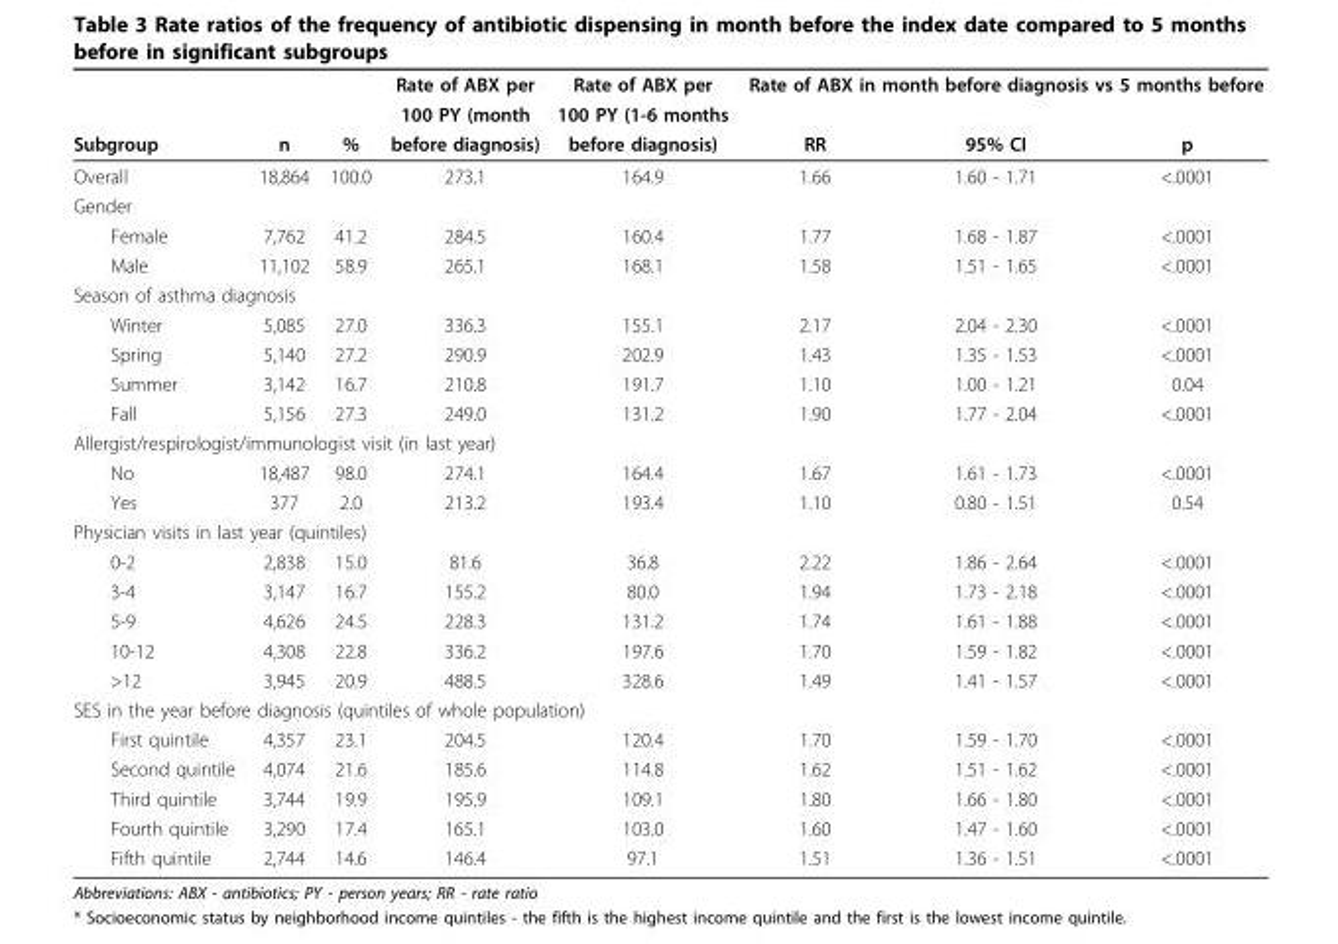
<table><thead><tr><td rowspan="3">Subgroup</td><td rowspan="3">n</td><td rowspan="3">%</td><td rowspan="3">Rate of ABX per 100 PY (month before diagnosis)</td><td rowspan="3">Rate of ABX per 100 PY (1-6 months before diagnosis)</td><td colspan="3">Rate of ABX in month before diagnosis vs 5 months before</td></tr><tr><td rowspan="2">RR</td><td rowspan="2">95% CI</td><td rowspan="2">p</td></tr><tr></tr></thead><tbody><tr><td>Overall</td><td>18,864</td><td>100.0</td><td>273.1</td><td>164.9</td><td>1.66</td><td>1.60 - 1.71</td><td>&lt;.0001</td></tr><tr><td colspan="8">Gender</td></tr><tr><td>Female</td><td>7,762</td><td>41.2</td><td>284.5</td><td>160.4</td><td>1.77</td><td>1.68 - 1.87</td><td>&lt;.0001</td></tr><tr><td>Male</td><td>11,102</td><td>58.9</td><td>265.1</td><td>168.1</td><td>1.58</td><td>1.51 - 1.65</td><td>&lt;.0001</td></tr><tr><td colspan="8">Season of asthma diagnosis</td></tr><tr><td>Winter</td><td>5,085</td><td>27.0</td><td>336.3</td><td>155.1</td><td>2.17</td><td>2.04 - 2.30</td><td>&lt;.0001</td></tr><tr><td>Spring</td><td>5,140</td><td>27.2</td><td>290.9</td><td>202.9</td><td>1.43</td><td>1.35 - 1.53</td><td>&lt;.0001</td></tr><tr><td>Summer</td><td>3,142</td><td>16.7</td><td>210.8</td><td>191.7</td><td>1.10</td><td>1.00 - 1.21</td><td>0.04</td></tr><tr><td>Fall</td><td>5,156</td><td>27.3</td><td>249.0</td><td>131.2</td><td>1.90</td><td>1.77 - 2.04</td><td>&lt;.0001</td></tr><tr><td colspan="8">Allergist/respirologist/immunologist visit (in last year)</td></tr><tr><td>No</td><td>18,487</td><td>98.0</td><td>274.1</td><td>164.4</td><td>1.67</td><td>1.61 - 1.73</td><td>&lt;.0001</td></tr><tr><td>Yes</td><td>377</td><td>2.0</td><td>213.2</td><td>193.4</td><td>1.10</td><td>0.80 - 1.51</td><td>0.54</td></tr><tr><td colspan="8">Physician visits in last year (quintiles)</td></tr><tr><td>0-2</td><td>2,838</td><td>15.0</td><td>81.6</td><td>36.8</td><td>2.22</td><td>1.86 - 2.64</td><td>&lt;.0001</td></tr><tr><td>3-4</td><td>3,147</td><td>16.7</td><td>155.2</td><td>80.0</td><td>1.94</td><td>1.73 - 2.18</td><td>&lt;.0001</td></tr><tr><td>5-9</td><td>4,626</td><td>24.5</td><td>228.3</td><td>131.2</td><td>1.74</td><td>1.61 - 1.88</td><td>&lt;.0001</td></tr><tr><td>10-12</td><td>4,308</td><td>22.8</td><td>336.2</td><td>197.6</td><td>1.70</td><td>1.59 - 1.82</td><td>&lt;.0001</td></tr><tr><td>&gt;12</td><td>3,945</td><td>20.9</td><td>488.5</td><td>328.6</td><td>1.49</td><td>1.41 - 1.57</td><td>&lt;.0001</td></tr><tr><td colspan="8">SES in the year before diagnosis (quintiles of whole population)</td></tr><tr><td>First quintile</td><td>4,357</td><td>23.1</td><td>204.5</td><td>120.4</td><td>1.70</td><td>1.59 - 1.70</td><td>&lt;.0001</td></tr><tr><td>Second quintile</td><td>4,074</td><td>21.6</td><td>185.6</td><td>114.8</td><td>1.62</td><td>1.51 - 1.62</td><td>&lt;.0001</td></tr><tr><td>Third quintile</td><td>3,744</td><td>19.9</td><td>195.9</td><td>109.1</td><td>1.80</td><td>1.66 - 1.80</td><td>&lt;.0001</td></tr><tr><td>Fourth quintile</td><td>3,290</td><td>17.4</td><td>165.1</td><td>103.0</td><td>1.60</td><td>1.47 - 1.60</td><td>&lt;.0001</td></tr><tr><td>Fifth quintile</td><td>2,744</td><td>14.6</td><td>146.4</td><td>97.1</td><td>1.51</td><td>1.36 - 1.51</td><td>&lt;.0001</td></tr></tbody></table>